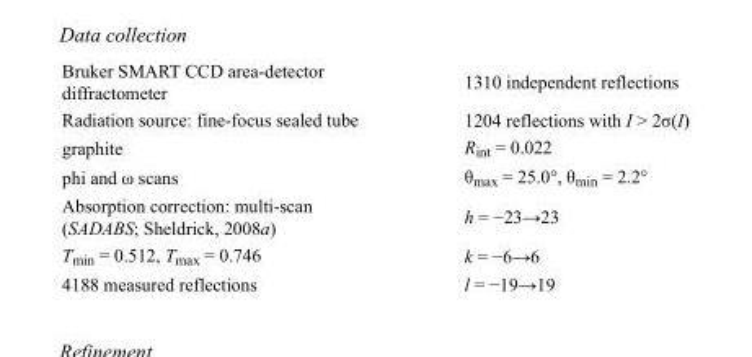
<table><tbody><tr><td>Bruker SMART CCD area-detector diffractometer</td><td>1310 independent reflections</td></tr><tr><td>Radiation source: fine-focus sealed tube</td><td>1204 reflections with I &gt; 2σ(I)</td></tr><tr><td>graphite</td><td>R<sub>int</sub> = 0.022</td></tr><tr><td>phi and ω scans</td><td>θ<sub>max</sub> = 25.0°, θ<sub>min</sub> = 2.2°</td></tr><tr><td>Absorption correction: multi-scan (SADABS; Sheldrick, 2008a)</td><td>h = −23→23</td></tr><tr><td>T<sub>min</sub> = 0.512, T<sub>max</sub> = 0.746</td><td>k = −6→6</td></tr><tr><td>4188 measured reflections</td><td>l = −19→19</td></tr></tbody></table>